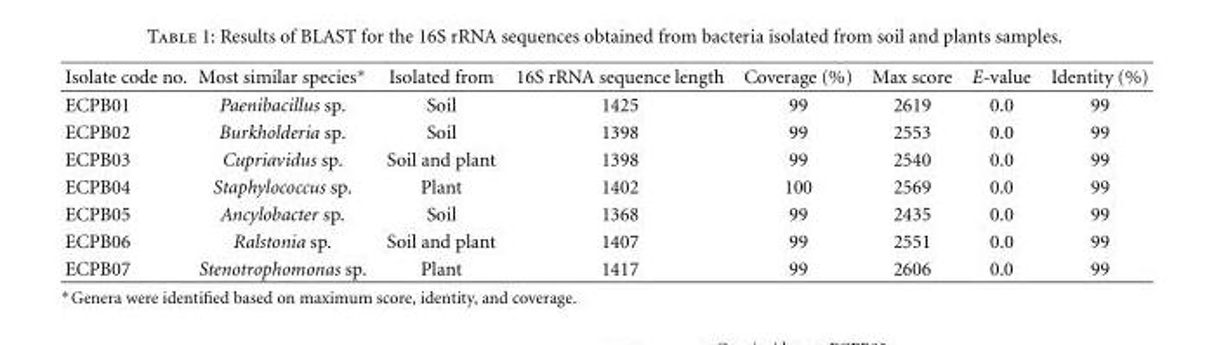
<table><thead><tr><td>Isolate code no.</td><td>Most similar species∗</td><td>Isolated from</td><td>16S rRNA sequence length</td><td>Coverage (%)</td><td>Max score</td><td>E-value</td><td>Identity (%)</td></tr></thead><tbody><tr><td>ECPB01</td><td>Paenibacillus sp.</td><td>Soil</td><td>1425</td><td>99</td><td>2619</td><td>0.0</td><td>99</td></tr><tr><td>ECPB02</td><td>Burkholderia sp.</td><td>Soil</td><td>1398</td><td>99</td><td>2553</td><td>0.0</td><td>99</td></tr><tr><td>ECPB03</td><td>Cupriavidus sp.</td><td>Soil and plant</td><td>1398</td><td>99</td><td>2540</td><td>0.0</td><td>99</td></tr><tr><td>ECPB04</td><td>Staphylococcus sp.</td><td>Plant</td><td>1402</td><td>100</td><td>2569</td><td>0.0</td><td>99</td></tr><tr><td>ECPB05</td><td>Ancylobacter sp.</td><td>Soil</td><td>1368</td><td>99</td><td>2435</td><td>0.0</td><td>99</td></tr><tr><td>ECPB06</td><td>Ralstonia sp.</td><td>Soil and plant</td><td>1407</td><td>99</td><td>2551</td><td>0.0</td><td>99</td></tr><tr><td>ECPB07</td><td>Stenotrophomonas sp.</td><td>Plant</td><td>1417</td><td>99</td><td>2606</td><td>0.0</td><td>99</td></tr></tbody></table>